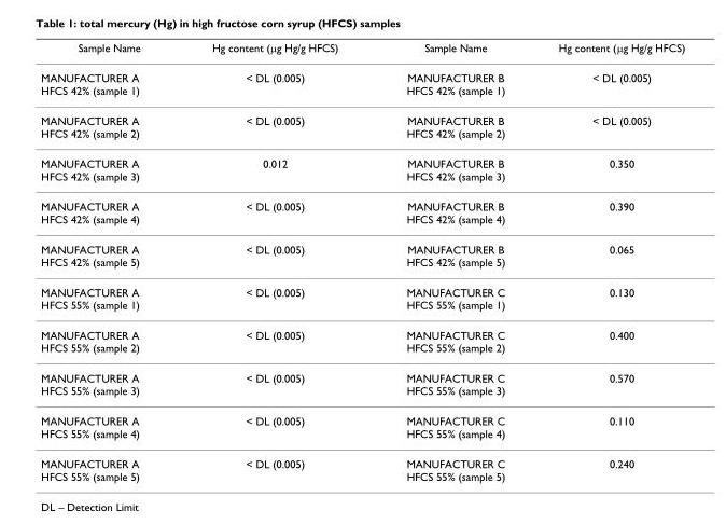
<table><thead><tr><td>Sample Name</td><td>Hg content (μg Hg/g HFCS)</td><td>Sample Name</td><td>Hg content (μg Hg/g HFCS)</td></tr></thead><tbody><tr><td>MANUFACTURER A HFCS 42% (sample 1)</td><td>&lt; DL (0.005)</td><td>MANUFACTURER B HFCS 42% (sample 1)</td><td>&lt; DL (0.005)</td></tr><tr><td>MANUFACTURER A HFCS 42% (sample 2)</td><td>&lt; DL (0.005)</td><td>MANUFACTURER B HFCS 42% (sample 2)</td><td>&lt; DL (0.005)</td></tr><tr><td>MANUFACTURER A HFCS 42% (sample 3)</td><td>0.012</td><td>MANUFACTURER B HFCS 42% (sample 3)</td><td>0.350</td></tr><tr><td>MANUFACTURER A HFCS 42% (sample 4)</td><td>&lt; DL (0.005)</td><td>MANUFACTURER B HFCS 42% (sample 4)</td><td>0.390</td></tr><tr><td>MANUFACTURER A HFCS 42% (sample 5)</td><td>&lt; DL (0.005)</td><td>MANUFACTURER B HFCS 42% (sample 5)</td><td>0.065</td></tr><tr><td>MANUFACTURER A HFCS 55% (sample 1)</td><td>&lt; DL (0.005)</td><td>MANUFACTURER C HFCS 55% (sample 1)</td><td>0.130</td></tr><tr><td>MANUFACTURER A HFCS 55% (sample 2)</td><td>&lt; DL (0.005)</td><td>MANUFACTURER C HFCS 55% (sample 2)</td><td>0.400</td></tr><tr><td>MANUFACTURER A HFCS 55% (sample 3)</td><td>&lt; DL (0.005)</td><td>MANUFACTURER C HFCS 55% (sample 3)</td><td>0.570</td></tr><tr><td>MANUFACTURER A HFCS 55% (sample 4)</td><td>&lt; DL (0.005)</td><td>MANUFACTURER C HFCS 55% (sample 4)</td><td>0.110</td></tr><tr><td>MANUFACTURER A HFCS 55% (sample 5)</td><td>&lt; DL (0.005)</td><td>MANUFACTURER C HFCS 55% (sample 5)</td><td>0.240</td></tr></tbody></table>